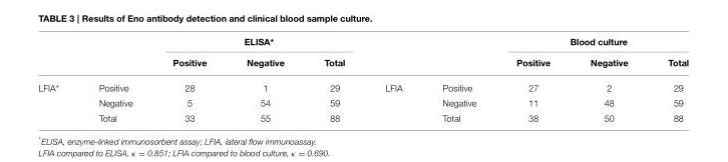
<table><thead><tr><td rowspan="2"></td><td rowspan="2"></td><td colspan="3">ELISA*</td><td rowspan="2"></td><td rowspan="2"></td><td colspan="3">Blood culture</td></tr><tr><td>Positive</td><td>Negative</td><td>Total</td><td>Positive</td><td>Negative</td><td>Total</td></tr></thead><tbody><tr><td rowspan="3">LFIA*</td><td>Positive</td><td>28</td><td>1</td><td>29</td><td>LFIA</td><td>Positive</td><td>27</td><td>2</td><td>29</td></tr><tr><td>Negative</td><td>5</td><td>54</td><td>59</td><td></td><td>Negative</td><td>11</td><td>48</td><td>59</td></tr><tr><td>Total</td><td>33</td><td>55</td><td>88</td><td></td><td>Total</td><td>38</td><td>50</td><td>88</td></tr></tbody></table>